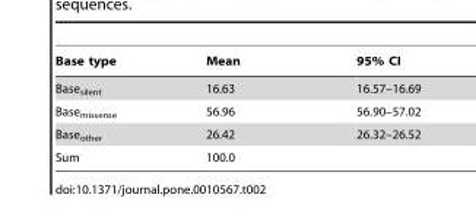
<table><thead><tr><td>Base type</td><td>Mean</td><td>95% CI</td></tr></thead><tbody><tr><td>Base<sub>silent</sub></td><td>16.63</td><td>16.57–16.69</td></tr><tr><td>Base<sub>missense</sub></td><td>56.96</td><td>56.90–57.02</td></tr><tr><td>Base<sub>other</sub></td><td>26.42</td><td>26.32–26.52</td></tr><tr><td>Sum</td><td>100.0</td><td></td></tr></tbody></table>